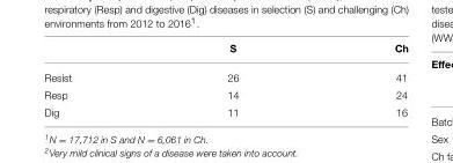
<table><thead><tr><td></td><td>S</td><td>Ch</td></tr></thead><tbody><tr><td>Resist</td><td>26</td><td>41</td></tr><tr><td>Resp</td><td>14</td><td>24</td></tr><tr><td>Dig</td><td>11</td><td>16</td></tr></tbody></table>